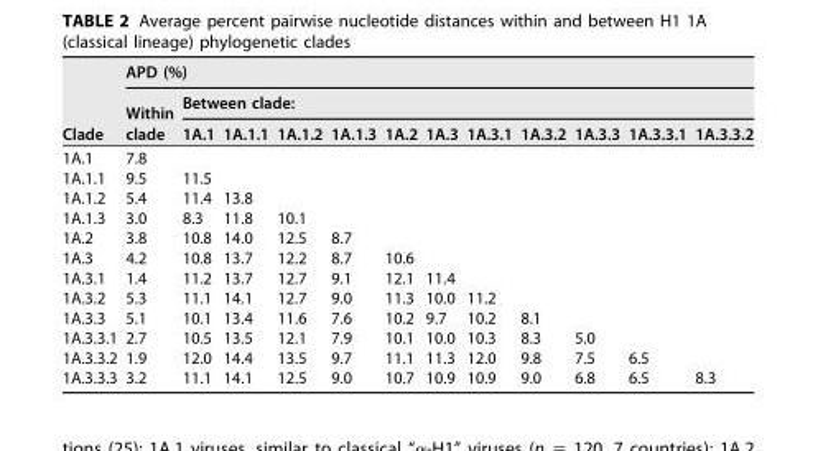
<table><thead><tr><td rowspan="3">Clade</td><td colspan="12">APD (%)</td></tr><tr><td rowspan="2">Within clade</td><td colspan="11">Between clade:</td></tr><tr><td>1A.1</td><td>1A.1.1</td><td>1A.1.2</td><td>1A.1.3</td><td>1A.2</td><td>1A.3</td><td>1A.3.1</td><td>1A.3.2</td><td>1A.3.3</td><td>1A.3.3.1</td><td>1A.3.3.2</td></tr></thead><tbody><tr><td>1A.1</td><td>7.8</td><td></td><td></td><td></td><td></td><td></td><td></td><td></td><td></td><td></td><td></td><td></td></tr><tr><td>1A.1.1</td><td>9.5</td><td>11.5</td><td></td><td></td><td></td><td></td><td></td><td></td><td></td><td></td><td></td><td></td></tr><tr><td>1A.1.2</td><td>5.4</td><td>11.4</td><td>13.8</td><td></td><td></td><td></td><td></td><td></td><td></td><td></td><td></td><td></td></tr><tr><td>1A.1.3</td><td>3.0</td><td>8.3</td><td>11.8</td><td>10.1</td><td></td><td></td><td></td><td></td><td></td><td></td><td></td><td></td></tr><tr><td>1A.2</td><td>3.8</td><td>10.8</td><td>14.0</td><td>12.5</td><td>8.7</td><td></td><td></td><td></td><td></td><td></td><td></td><td></td></tr><tr><td>1A.3</td><td>4.2</td><td>10.8</td><td>13.7</td><td>12.2</td><td>8.7</td><td>10.6</td><td></td><td></td><td></td><td></td><td></td><td></td></tr><tr><td>1A.3.1</td><td>1.4</td><td>11.2</td><td>13.7</td><td>12.7</td><td>9.1</td><td>12.1</td><td>11.4</td><td></td><td></td><td></td><td></td><td></td></tr><tr><td>1A.3.2</td><td>5.3</td><td>11.1</td><td>14.1</td><td>12.7</td><td>9.0</td><td>11.3</td><td>10.0</td><td>11.2</td><td></td><td></td><td></td><td></td></tr><tr><td>1A.3.3</td><td>5.1</td><td>10.1</td><td>13.4</td><td>11.6</td><td>7.6</td><td>10.2</td><td>9.7</td><td>10.2</td><td>8.1</td><td></td><td></td><td></td></tr><tr><td>1A.3.3.1</td><td>2.7</td><td>10.5</td><td>13.5</td><td>12.1</td><td>7.9</td><td>10.1</td><td>10.0</td><td>10.3</td><td>8.3</td><td>5.0</td><td></td><td></td></tr><tr><td>1A.3.3.2</td><td>1.9</td><td>12.0</td><td>14.4</td><td>13.5</td><td>9.7</td><td>11.1</td><td>11.3</td><td>12.0</td><td>9.8</td><td>7.5</td><td>6.5</td><td></td></tr><tr><td>1A.3.3.3</td><td>3.2</td><td>11.1</td><td>14.1</td><td>12.5</td><td>9.0</td><td>10.7</td><td>10.9</td><td>10.9</td><td>9.0</td><td>6.8</td><td>6.5</td><td>8.3</td></tr></tbody></table>